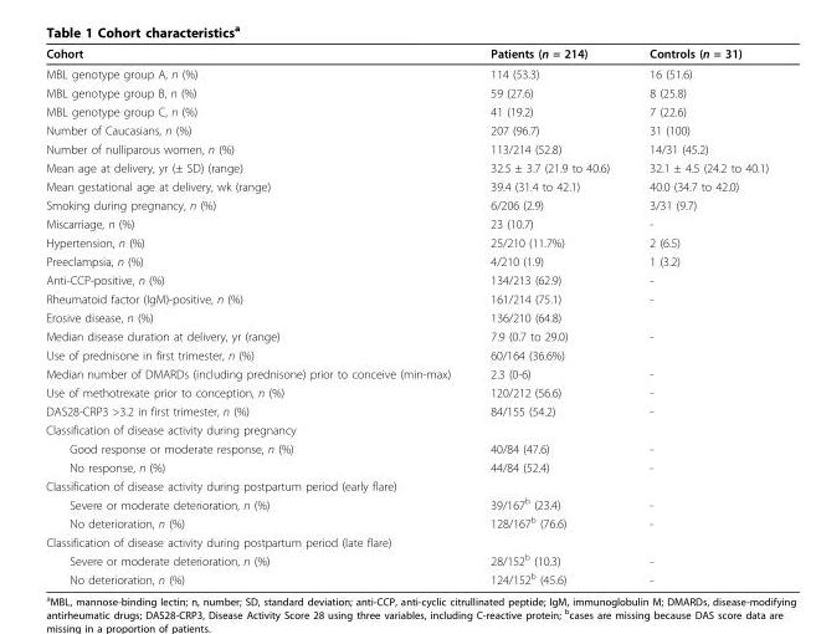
<table><thead><tr><td>Cohort</td><td>Patients (n = 214)</td><td>Controls (n = 31)</td></tr></thead><tbody><tr><td>MBL genotype group A, n (%)</td><td>114 (53.3)</td><td>16 (51.6)</td></tr><tr><td>MBL genotype group B, n (%)</td><td>59 (27.6)</td><td>8 (25.8)</td></tr><tr><td>MBL genotype group C, n (%)</td><td>41 (19.2)</td><td>7 (22.6)</td></tr><tr><td>Number of Caucasians, n (%)</td><td>207 (96.7)</td><td>31 (100)</td></tr><tr><td>Number of nulliparous women, n (%)</td><td>113/214 (52.8)</td><td>14/31 (45.2)</td></tr><tr><td>Mean age at delivery, yr (± SD) (range)</td><td>32.5 ± 3.7 (21.9 to 40.6)</td><td>32.1 ± 4.5 (24.2 to 40.1)</td></tr><tr><td>Mean gestational age at delivery, wk (range)</td><td>39.4 (31.4 to 42.1)</td><td>40.0 (34.7 to 42.0)</td></tr><tr><td>Smoking during pregnancy, n (%)</td><td>6/206 (2.9)</td><td>3/31 (9.7)</td></tr><tr><td>Miscarriage, n (%)</td><td>23 (10.7)</td><td>-</td></tr><tr><td>Hypertension, n (%)</td><td>25/210 (11.7%)</td><td>2 (6.5)</td></tr><tr><td>Preeclampsia, n (%)</td><td>4/210 (1.9)</td><td>1 (3.2)</td></tr><tr><td>Anti-CCP-positive, n (%)</td><td>134/213 (62.9)</td><td>-</td></tr><tr><td>Rheumatoid factor (IgM)-positive, n (%)</td><td>161/214 (75.1)</td><td>-</td></tr><tr><td>Erosive disease, n (%)</td><td>136/210 (64.8)</td><td></td></tr><tr><td>Median disease duration at delivery, yr (range)</td><td>7.9 (0.7 to 29.0)</td><td>-</td></tr><tr><td>Use of prednisone in first trimester, n (%)</td><td>60/164 (36.6%)</td><td></td></tr><tr><td>Median number of DMARDs (including prednisone) prior to conceive (min-max)</td><td>2.3 (0-6)</td><td>-</td></tr><tr><td>Use of methotrexate prior to conception, n (%)</td><td>120/212 (56.6)</td><td>-</td></tr><tr><td>DAS28-CRP3 &gt;3.2 in first trimester, n (%)</td><td>84/155 (54.2)</td><td>-</td></tr><tr><td colspan="3">Classification of disease activity during pregnancy</td></tr><tr><td>Good response or moderate response, n (%)</td><td>40/84 (47.6)</td><td>-</td></tr><tr><td>No response, n (%)</td><td>44/84 (52.4)</td><td>-</td></tr><tr><td colspan="3">Classification of disease activity during postpartum period (early flare)</td></tr><tr><td>Severe or moderate deterioration, n (%)</td><td>39/167<sup>b</sup> (23.4)</td><td>-</td></tr><tr><td>No deterioration, n (%)</td><td>128/167<sup>b</sup> (76.6)</td><td>-</td></tr><tr><td colspan="3">Classification of disease activity during postpartum period (late flare)</td></tr><tr><td>Severe or moderate deterioration, n (%)</td><td>28/152<sup>b</sup> (10.3)</td><td>-</td></tr><tr><td>No deterioration, n (%)</td><td>124/152<sup>b</sup> (45.6)</td><td>-</td></tr></tbody></table>